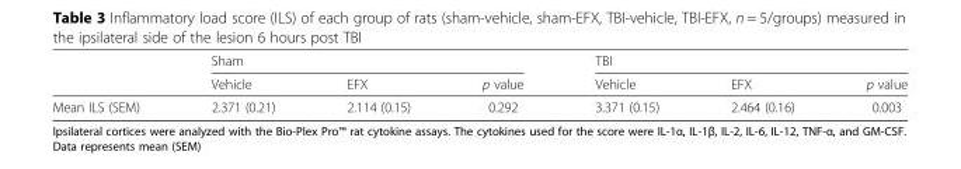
<table><thead><tr><td rowspan="2"></td><td colspan="3">Sham</td><td colspan="3">TBI</td></tr><tr><td>Vehicle</td><td>EFX</td><td>p value</td><td>Vehicle</td><td>EFX</td><td>p value</td></tr></thead><tbody><tr><td>Mean ILS (SEM)</td><td>2.371 (0.21)</td><td>2.114 (0.15)</td><td>0.292</td><td>3.371 (0.15)</td><td>2.464 (0.16)</td><td>0.003</td></tr></tbody></table>